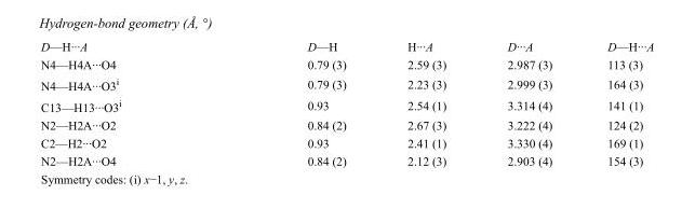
<table><tbody><tr><td>D—H···A</td><td>D—H</td><td>H···A</td><td>D···A</td><td>D—H···A</td></tr><tr><td>N4—H4A···O4</td><td>0.79 (3)</td><td>2.59 (3)</td><td>2.987 (3)</td><td>113 (3)</td></tr><tr><td>N4—H4A···O3<sup>i</sup></td><td>0.79 (3)</td><td>2.23 (3)</td><td>2.999 (3)</td><td>164 (3)</td></tr><tr><td>C13—H13···O3<sup>i</sup></td><td>0.93</td><td>2.54 (1)</td><td>3.314 (4)</td><td>141 (1)</td></tr><tr><td>N2—H2A···O2</td><td>0.84 (2)</td><td>2.67 (3)</td><td>3.222 (4)</td><td>124 (2)</td></tr><tr><td>C2—H2···O2</td><td>0.93</td><td>2.41 (1)</td><td>3.330 (4)</td><td>169 (1)</td></tr><tr><td>N2—H2A···O4</td><td>0.84 (2)</td><td>2.12 (3)</td><td>2.903 (4)</td><td>154 (3)</td></tr></tbody></table>